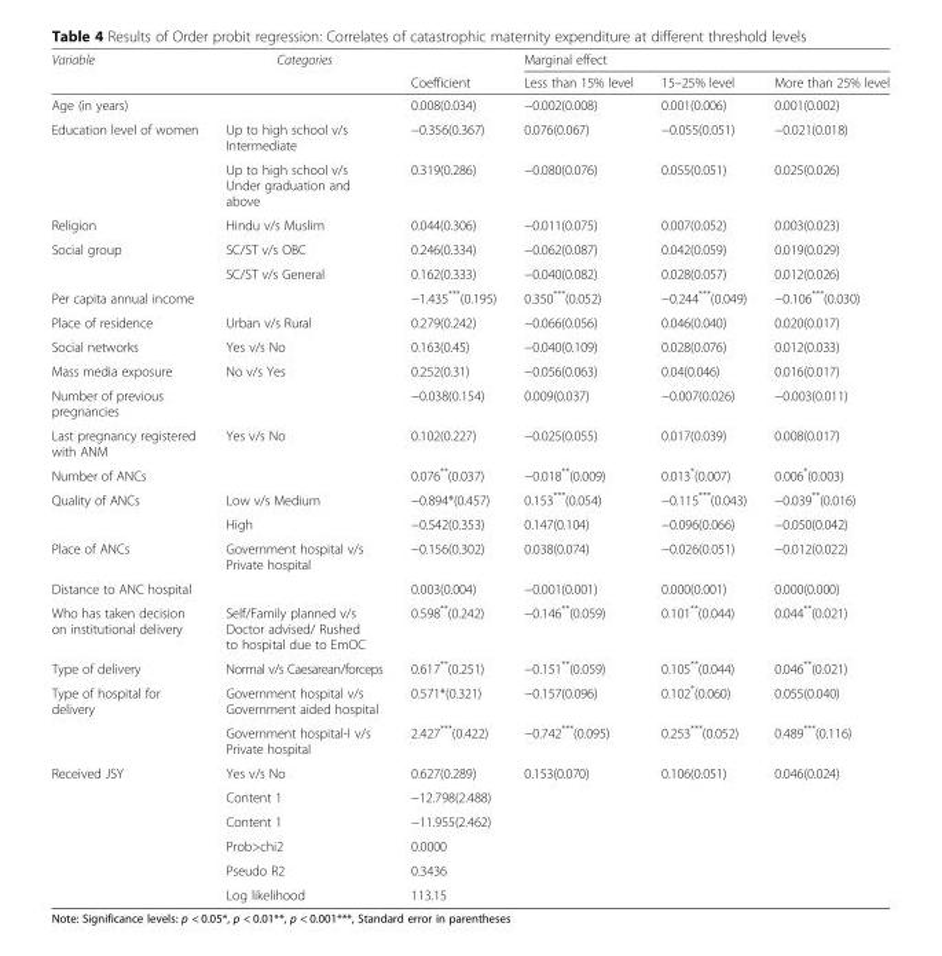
<table><thead><tr><td rowspan="2">Variable</td><td rowspan="2">Categories</td><td rowspan="2">Coefficient</td><td colspan="3">Marginal effect</td></tr><tr><td>Less than 15% level</td><td>15–25% level</td><td>More than 25% level</td></tr></thead><tbody><tr><td>Age (in years)</td><td></td><td>0.008(0.034)</td><td>−0.002(0.008)</td><td>0.001(0.006)</td><td>0.001(0.002)</td></tr><tr><td rowspan="2">Education level of women</td><td>Up to high school v/s Intermediate</td><td>−0.356(0.367)</td><td>0.076(0.067)</td><td>−0.055(0.051)</td><td>−0.021(0.018)</td></tr><tr><td>Up to high school v/s Under graduation and above</td><td>0.319(0.286)</td><td>−0.080(0.076)</td><td>0.055(0.051)</td><td>0.025(0.026)</td></tr><tr><td>Religion</td><td>Hindu v/s Muslim</td><td>0.044(0.306)</td><td>−0.011(0.075)</td><td>0.007(0.052)</td><td>0.003(0.023)</td></tr><tr><td rowspan="2">Social group</td><td>SC/ST v/s OBC</td><td>0.246(0.334)</td><td>−0.062(0.087)</td><td>0.042(0.059)</td><td>0.019(0.029)</td></tr><tr><td>SC/ST v/s General</td><td>0.162(0.333)</td><td>−0.040(0.082)</td><td>0.028(0.057)</td><td>0.012(0.026)</td></tr><tr><td>Per capita annual income</td><td></td><td>−1.435***(0.195)</td><td>0.350***(0.052)</td><td>−0.244***(0.049)</td><td>−0.106***(0.030)</td></tr><tr><td>Place of residence</td><td>Urban v/s Rural</td><td>0.279(0.242)</td><td>−0.066(0.056)</td><td>0.046(0.040)</td><td>0.020(0.017)</td></tr><tr><td>Social networks</td><td>Yes v/s No</td><td>0.163(0.45)</td><td>−0.040(0.109)</td><td>0.028(0.076)</td><td>0.012(0.033)</td></tr><tr><td>Mass media exposure</td><td>No v/s Yes</td><td>0.252(0.31)</td><td>−0.056(0.063)</td><td>0.04(0.046)</td><td>0.016(0.017)</td></tr><tr><td>Number of previous pregnancies</td><td></td><td>−0.038(0.154)</td><td>0.009(0.037)</td><td>−0.007(0.026)</td><td>−0.003(0.011)</td></tr><tr><td>Last pregnancy registered with ANM</td><td>Yes v/s No</td><td>0.102(0.227)</td><td>−0.025(0.055)</td><td>0.017(0.039)</td><td>0.008(0.017)</td></tr><tr><td>Number of ANCs</td><td></td><td>0.076**(0.037)</td><td>−0.018**(0.009)</td><td>0.013*(0.007)</td><td>0.006*(0.003)</td></tr><tr><td rowspan="2">Quality of ANCs</td><td>Low v/s Medium</td><td>−0.894*(0.457)</td><td>0.153***(0.054)</td><td>−0.115***(0.043)</td><td>−0.039**(0.016)</td></tr><tr><td>High</td><td>−0.542(0.353)</td><td>0.147(0.104)</td><td>−0.096(0.066)</td><td>−0.050(0.042)</td></tr><tr><td>Place of ANCs</td><td>Government hospital v/s Private hospital</td><td>−0.156(0.302)</td><td>0.038(0.074)</td><td>−0.026(0.051)</td><td>−0.012(0.022)</td></tr><tr><td>Distance to ANC hospital</td><td></td><td>0.003(0.004)</td><td>−0.001(0.001)</td><td>0.000(0.001)</td><td>0.000(0.000)</td></tr><tr><td>Who has taken decision on institutional delivery</td><td>Self/Family planned v/s Doctor advised/ Rushed to hospital due to EmOC</td><td>0.598**(0.242)</td><td>−0.146**(0.059)</td><td>0.101**(0.044)</td><td>0.044**(0.021)</td></tr><tr><td>Type of delivery</td><td>Normal v/s Caesarean/forceps</td><td>0.617**(0.251)</td><td>−0.151**(0.059)</td><td>0.105**(0.044)</td><td>0.046**(0.021)</td></tr><tr><td rowspan="2">Type of hospital for delivery</td><td>Government hospital v/s Government aided hospital</td><td>0.571*(0.321)</td><td>−0.157(0.096)</td><td>0.102*(0.060)</td><td>0.055(0.040)</td></tr><tr><td>Government hospital-I v/s Private hospital</td><td>2.427***(0.422)</td><td>−0.742***(0.095)</td><td>0.253***(0.052)</td><td>0.489***(0.116)</td></tr><tr><td rowspan="6">Received JSY</td><td>Yes v/s No</td><td>0.627(0.289)</td><td>0.153(0.070)</td><td>0.106(0.051)</td><td>0.046(0.024)</td></tr><tr><td>Content 1</td><td>−12.798(2.488)</td><td></td><td></td><td></td></tr><tr><td>Content 1</td><td>−11.955(2.462)</td><td></td><td></td><td></td></tr><tr><td>Prob&gt;chi2</td><td>0.0000</td><td></td><td></td><td></td></tr><tr><td>Pseudo R2</td><td>0.3436</td><td></td><td></td><td></td></tr><tr><td>Log likelihood</td><td>113.15</td><td></td><td></td><td></td></tr></tbody></table>